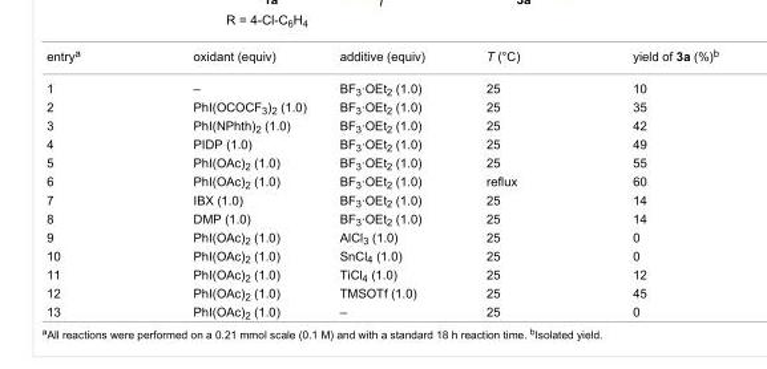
<table><tbody><tr><td>entry<sup>a</sup></td><td>oxidant (equiv)</td><td>additive (equiv)</td><td>T (°C)</td><td>yield of 3a (%)<sup>b</sup></td></tr><tr><td>1</td><td>–</td><td>BF<sub>3</sub>·OEt<sub>2</sub> (1.0)</td><td>25</td><td>10</td></tr><tr><td>2</td><td>PhI(OCOCF<sub>3</sub>)<sub>2</sub> (1.0)</td><td>BF<sub>3</sub>·OEt<sub>2</sub> (1.0)</td><td>25</td><td>35</td></tr><tr><td>3</td><td>PhI(NPhth)<sub>2</sub> (1.0)</td><td>BF<sub>3</sub>·OEt<sub>2</sub> (1.0)</td><td>25</td><td>42</td></tr><tr><td>4</td><td>PIDP (1.0)</td><td>BF<sub>3</sub>·OEt<sub>2</sub> (1.0)</td><td>25</td><td>49</td></tr><tr><td>5</td><td>PhI(OAc)<sub>2</sub> (1.0)</td><td>BF<sub>3</sub>·OEt<sub>2</sub> (1.0)</td><td>25</td><td>55</td></tr><tr><td>6</td><td>PhI(OAc)<sub>2</sub> (1.0)</td><td>BF<sub>3</sub>·OEt<sub>2</sub> (1.0)</td><td>reflux</td><td>60</td></tr><tr><td>7</td><td>IBX (1.0)</td><td>BF<sub>3</sub>·OEt<sub>2</sub> (1.0)</td><td>25</td><td>14</td></tr><tr><td>8</td><td>DMP (1.0)</td><td>BF<sub>3</sub>·OEt<sub>2</sub> (1.0)</td><td>25</td><td>14</td></tr><tr><td>9</td><td>PhI(OAc)<sub>2</sub> (1.0)</td><td>AlCl<sub>3</sub> (1.0)</td><td>25</td><td>0</td></tr><tr><td>10</td><td>PhI(OAc)<sub>2</sub> (1.0)</td><td>SnCl<sub>4</sub> (1.0)</td><td>25</td><td>0</td></tr><tr><td>11</td><td>PhI(OAc)<sub>2</sub> (1.0)</td><td>TiCl<sub>4</sub> (1.0)</td><td>25</td><td>12</td></tr><tr><td>12</td><td>PhI(OAc)<sub>2</sub> (1.0)</td><td>TMSOTf (1.0)</td><td>25</td><td>45</td></tr><tr><td>13</td><td>PhI(OAc)<sub>2</sub> (1.0)</td><td>–</td><td>25</td><td>0</td></tr></tbody></table>